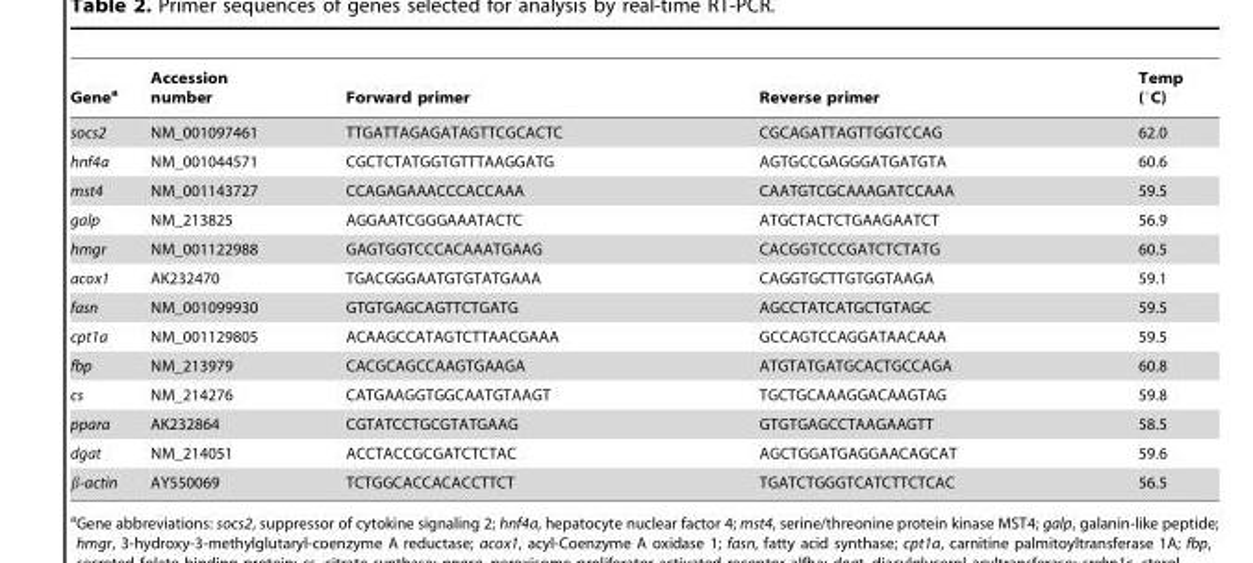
<table><thead><tr><td>Gene<sup>a</sup></td><td>Accession number</td><td>Forward primer</td><td>Reverse primer</td><td>Temp (°C)</td></tr></thead><tbody><tr><td>socs2</td><td>NM_001097461</td><td>TTGATTAGAGATAGTTCGCACTC</td><td>CGCAGATTAGTTGGTCCAG</td><td>62.0</td></tr><tr><td>hnf4a</td><td>NM_001044571</td><td>CGCTCTATGGTGTTTAAGGATG</td><td>AGTGCCGAGGGATGATGTA</td><td>60.6</td></tr><tr><td>mst4</td><td>NM_001143727</td><td>CCAGAGAAACCCACCAAA</td><td>CAATGTCGCAAAGATCCAAA</td><td>59.5</td></tr><tr><td>galp</td><td>NM_213825</td><td>AGGAATCGGGAAATACTC</td><td>ATGCTACTCTGAAGAATCT</td><td>56.9</td></tr><tr><td>hmgr</td><td>NM_001122988</td><td>GAGTGGTCCCACAAATGAAG</td><td>CACGGTCCCGATCTCTATG</td><td>60.5</td></tr><tr><td>acox1</td><td>AK232470</td><td>TGACGGGAATGTGTATGAAA</td><td>CAGGTGCTTGTGGTAAGA</td><td>59.1</td></tr><tr><td>fasn</td><td>NM_001099930</td><td>GTGTGAGCAGTTCTGATG</td><td>AGCCTATCATGCTGTAGC</td><td>59.5</td></tr><tr><td>cpt1a</td><td>NM_001129805</td><td>ACAAGCCATAGTCTTAACGAAA</td><td>GCCAGTCCAGGATAACAAA</td><td>59.5</td></tr><tr><td>fbp</td><td>NM_213979</td><td>CACGCAGCCAAGTGAAGA</td><td>ATGTATGATGCACTGCCAGA</td><td>60.8</td></tr><tr><td>cs</td><td>NM_214276</td><td>CATGAAGGTGGCAATGTAAGT</td><td>TGCTGCAAAGGACAAGTAG</td><td>59.8</td></tr><tr><td>ppara</td><td>AK232864</td><td>CGTATCCTGCGTATGAAG</td><td>GTGTGAGCCTAAGAAGTT</td><td>58.5</td></tr><tr><td>dgat</td><td>NM_214051</td><td>ACCTACCGCGATCTCTAC</td><td>AGCTGGATGAGGAACAGCAT</td><td>59.6</td></tr><tr><td>β-actin</td><td>AY550069</td><td>TCTGGCACCACACCTTCT</td><td>TGATCTGGGTCATCTTCTCAC</td><td>56.5</td></tr></tbody></table>